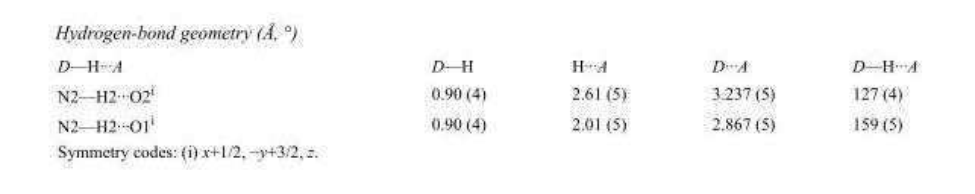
<table><tbody><tr><td>D—H···A</td><td>D—H</td><td>H···A</td><td>D···A</td><td>D—H···A</td></tr><tr><td>N2—H2···O2<sup>i</sup></td><td>0.90 (4)</td><td>2.61 (5)</td><td>3.237 (5)</td><td>127 (4)</td></tr><tr><td>N2—H2···O1<sup>i</sup></td><td>0.90 (4)</td><td>2.01 (5)</td><td>2.867 (5)</td><td>159 (5)</td></tr></tbody></table>